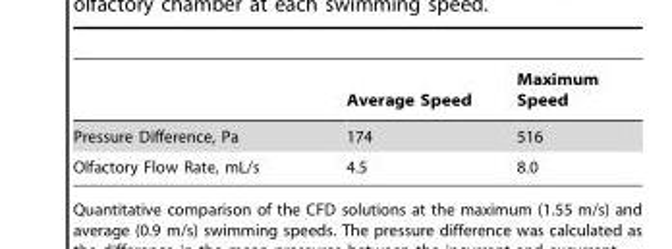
<table><thead><tr><td></td><td>Average Speed</td><td>Maximum Speed</td></tr></thead><tbody><tr><td>Pressure Difference, Pa</td><td>174</td><td>516</td></tr><tr><td>Olfactory Flow Rate, mL/s</td><td>4.5</td><td>8.0</td></tr></tbody></table>